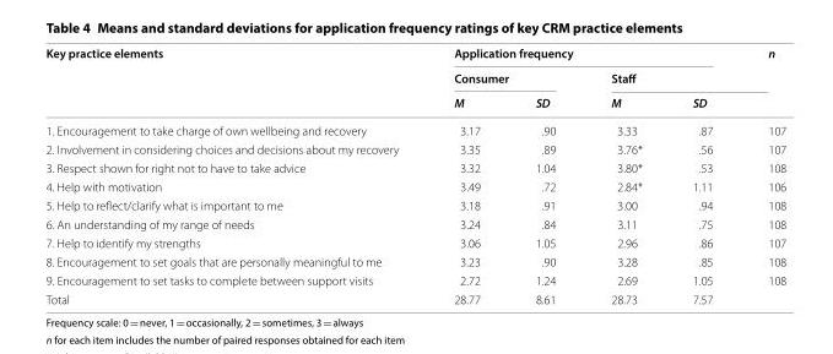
<table><thead><tr><td rowspan="3">Key practice elements</td><td colspan="4">Application frequency</td><td rowspan="3">n</td></tr><tr><td colspan="2">Consumer</td><td colspan="2">Staff</td></tr><tr><td>M</td><td>SD</td><td>M</td><td>SD</td></tr></thead><tbody><tr><td>1. Encouragement to take charge of own wellbeing and recovery</td><td>3.17</td><td>.90</td><td>3.33</td><td>.87</td><td>107</td></tr><tr><td>2. Involvement in considering choices and decisions about my recovery</td><td>3.35</td><td>.89</td><td>3.76*</td><td>.56</td><td>107</td></tr><tr><td>3. Respect shown for right not to have to take advice</td><td>3.32</td><td>1.04</td><td>3.80*</td><td>.53</td><td>108</td></tr><tr><td>4. Help with motivation</td><td>3.49</td><td>.72</td><td>2.84*</td><td>1.11</td><td>106</td></tr><tr><td>5. Help to reflect/clarify what is important to me</td><td>3.18</td><td>.91</td><td>3.00</td><td>.94</td><td>108</td></tr><tr><td>6. An understanding of my range of needs</td><td>3.24</td><td>.84</td><td>3.11</td><td>.75</td><td>108</td></tr><tr><td>7. Help to identify my strengths</td><td>3.06</td><td>1.05</td><td>2.96</td><td>.86</td><td>107</td></tr><tr><td>8. Encouragement to set goals that are personally meaningful to me</td><td>3.23</td><td>.90</td><td>3.28</td><td>.85</td><td>108</td></tr><tr><td>9. Encouragement to set tasks to complete between support visits</td><td>2.72</td><td>1.24</td><td>2.69</td><td>1.05</td><td>108</td></tr><tr><td>Total</td><td>28.77</td><td>8.61</td><td>28.73</td><td>7.57</td><td></td></tr></tbody></table>